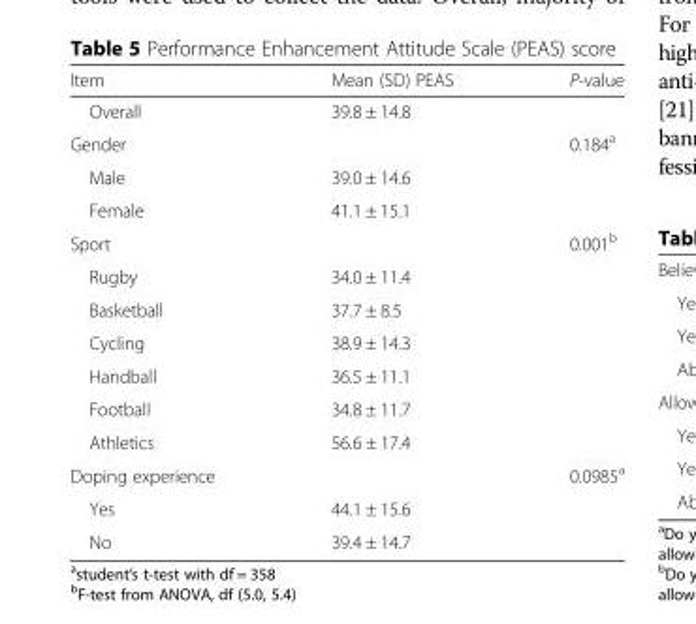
<table><thead><tr><td>Item</td><td>Mean (SD) PEAS</td><td>P-value</td></tr></thead><tbody><tr><td>Overall</td><td>39.8 ± 14.8</td><td></td></tr><tr><td>Gender</td><td></td><td>0.184<sup>a</sup></td></tr><tr><td>Male</td><td>39.0 ± 14.6</td><td></td></tr><tr><td>Female</td><td>41.1 ± 15.1</td><td></td></tr><tr><td>Sport</td><td></td><td>0.001<sup>b</sup></td></tr><tr><td>Rugby</td><td>34.0 ± 11.4</td><td></td></tr><tr><td>Basketball</td><td>37.7 ± 8.5</td><td></td></tr><tr><td>Cycling</td><td>38.9 ± 14.3</td><td></td></tr><tr><td>Handball</td><td>36.5 ± 11.1</td><td></td></tr><tr><td>Football</td><td>34.8 ± 11.7</td><td></td></tr><tr><td>Athletics</td><td>56.6 ± 17.4</td><td></td></tr><tr><td>Doping experience</td><td></td><td>0.0985<sup>a</sup></td></tr><tr><td>Yes</td><td>44.1 ± 15.6</td><td></td></tr><tr><td>No</td><td>39.4 ± 14.7</td><td></td></tr></tbody></table>